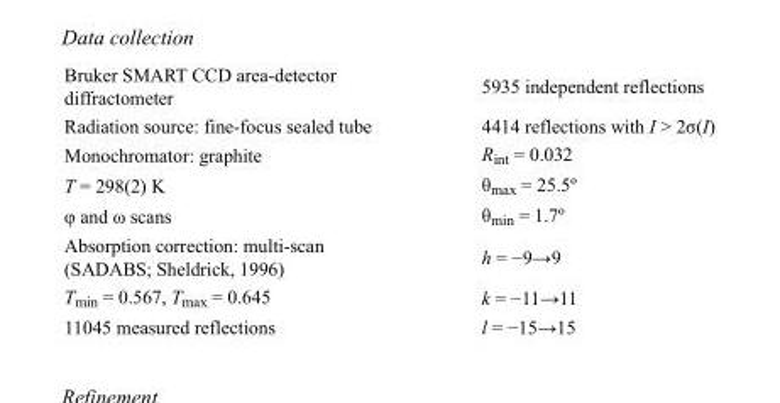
<table><tbody><tr><td>Bruker SMART CCD area-detector diffractometer</td><td>5935 independent reflections</td></tr><tr><td>Radiation source: fine-focus sealed tube</td><td>4414 reflections with I &gt; 2σ(I)</td></tr><tr><td>Monochromator: graphite</td><td>R<sub>int</sub> = 0.032</td></tr><tr><td>T = 298(2) K</td><td>θ<sub>max</sub> = 25.5º</td></tr><tr><td>φ and ω scans</td><td>θ<sub>min</sub> = 1.7º</td></tr><tr><td>Absorption correction: multi-scan (SADABS; Sheldrick, 1996)</td><td>h = −9→9</td></tr><tr><td>T<sub>min</sub> = 0.567, T<sub>max</sub> = 0.645</td><td>k = −11→11</td></tr><tr><td>11045 measured reflections</td><td>l = −15→15</td></tr></tbody></table>